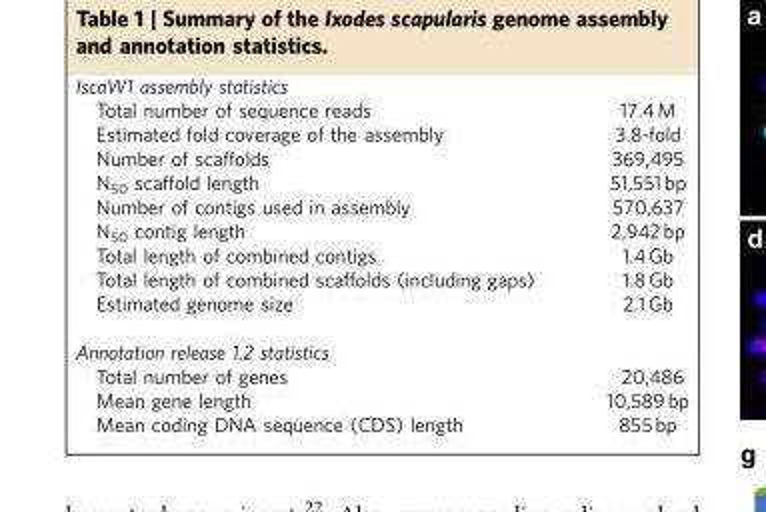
<table><tbody><tr><td colspan="2">IscaW1 assembly statistics</td></tr><tr><td>Total number of sequence reads</td><td>17.4 M</td></tr><tr><td>Estimated fold coverage of the assembly</td><td>3.8-fold</td></tr><tr><td>Number of scaffolds</td><td>369,495</td></tr><tr><td>N<sub>50</sub> scaffold length</td><td>51,551 bp</td></tr><tr><td>Number of contigs used in assembly</td><td>570,637</td></tr><tr><td>N<sub>50</sub> contig length</td><td>2,942 bp</td></tr><tr><td>Total length of combined contigs</td><td>1.4 Gb</td></tr><tr><td>Total length of combined scaffolds (including gaps)</td><td>1.8 Gb</td></tr><tr><td>Estimated genome size</td><td>2.1 Gb</td></tr><tr><td colspan="2">Annotation release 1.2 statistics</td></tr><tr><td>Total number of genes</td><td>20,486</td></tr><tr><td>Mean gene length</td><td>10,589 bp</td></tr><tr><td>Mean coding DNA sequence (CDS) length</td><td>855 bp</td></tr></tbody></table>